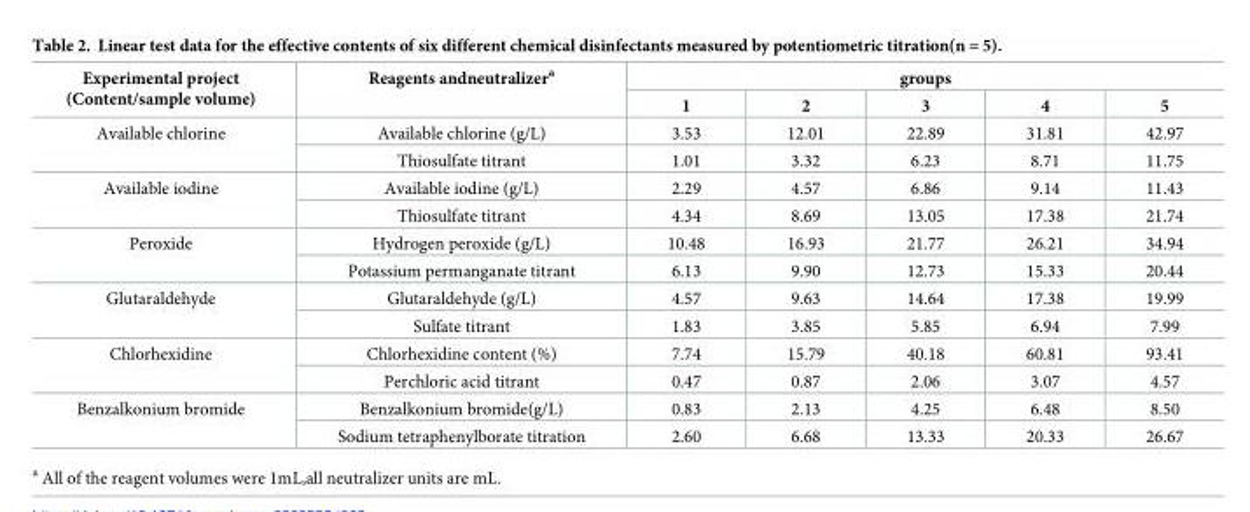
<table><thead><tr><td rowspan="2">Experimental project (Content/sample volume)</td><td rowspan="2">Reagents andneutralizer<sup>a</sup></td><td colspan="5">groups</td></tr><tr><td>1</td><td>2</td><td>3</td><td>4</td><td>5</td></tr></thead><tbody><tr><td rowspan="2">Available chlorine</td><td>Available chlorine (g/L)</td><td>3.53</td><td>12.01</td><td>22.89</td><td>31.81</td><td>42.97</td></tr><tr><td>Thiosulfate titrant</td><td>1.01</td><td>3.32</td><td>6.23</td><td>8.71</td><td>11.75</td></tr><tr><td rowspan="2">Available iodine</td><td>Available iodine (g/L)</td><td>2.29</td><td>4.57</td><td>6.86</td><td>9.14</td><td>11.43</td></tr><tr><td>Thiosulfate titrant</td><td>4.34</td><td>8.69</td><td>13.05</td><td>17.38</td><td>21.74</td></tr><tr><td rowspan="2">Peroxide</td><td>Hydrogen peroxide (g/L)</td><td>10.48</td><td>16.93</td><td>21.77</td><td>26.21</td><td>34.94</td></tr><tr><td>Potassium permanganate titrant</td><td>6.13</td><td>9.90</td><td>12.73</td><td>15.33</td><td>20.44</td></tr><tr><td rowspan="2">Glutaraldehyde</td><td>Glutaraldehyde (g/L)</td><td>4.57</td><td>9.63</td><td>14.64</td><td>17.38</td><td>19.99</td></tr><tr><td>Sulfate titrant</td><td>1.83</td><td>3.85</td><td>5.85</td><td>6.94</td><td>7.99</td></tr><tr><td rowspan="2">Chlorhexidine</td><td>Chlorhexidine content (%)</td><td>7.74</td><td>15.79</td><td>40.18</td><td>60.81</td><td>93.41</td></tr><tr><td>Perchloric acid titrant</td><td>0.47</td><td>0.87</td><td>2.06</td><td>3.07</td><td>4.57</td></tr><tr><td rowspan="2">Benzalkonium bromide</td><td>Benzalkonium bromide(g/L)</td><td>0.83</td><td>2.13</td><td>4.25</td><td>6.48</td><td>8.50</td></tr><tr><td>Sodium tetraphenylborate titration</td><td>2.60</td><td>6.68</td><td>13.33</td><td>20.33</td><td>26.67</td></tr></tbody></table>